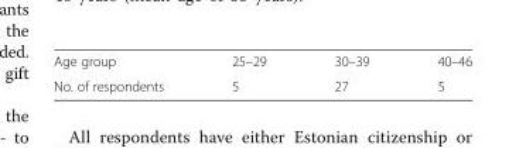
<table><tbody><tr><td>Age group</td><td>25–29</td><td>30–39</td><td>40–46</td></tr><tr><td>No. of respondents</td><td>5</td><td>27</td><td>5</td></tr></tbody></table>